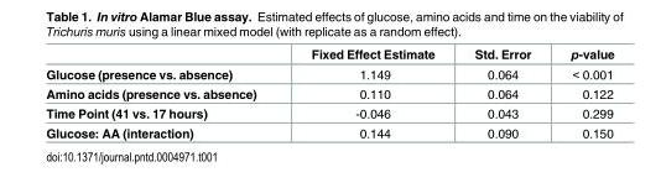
<table><thead><tr><td></td><td>Fixed Effect Estimate</td><td>Std. Error</td><td>p-value</td></tr></thead><tbody><tr><td>Glucose (presence vs. absence)</td><td>1.149</td><td>0.064</td><td>&lt; 0.001</td></tr><tr><td>Amino acids (presence vs. absence)</td><td>0.110</td><td>0.064</td><td>0.122</td></tr><tr><td>Time Point (41 vs. 17 hours)</td><td>-0.046</td><td>0.043</td><td>0.299</td></tr><tr><td>Glucose: AA (interaction)</td><td>0.144</td><td>0.090</td><td>0.150</td></tr></tbody></table>